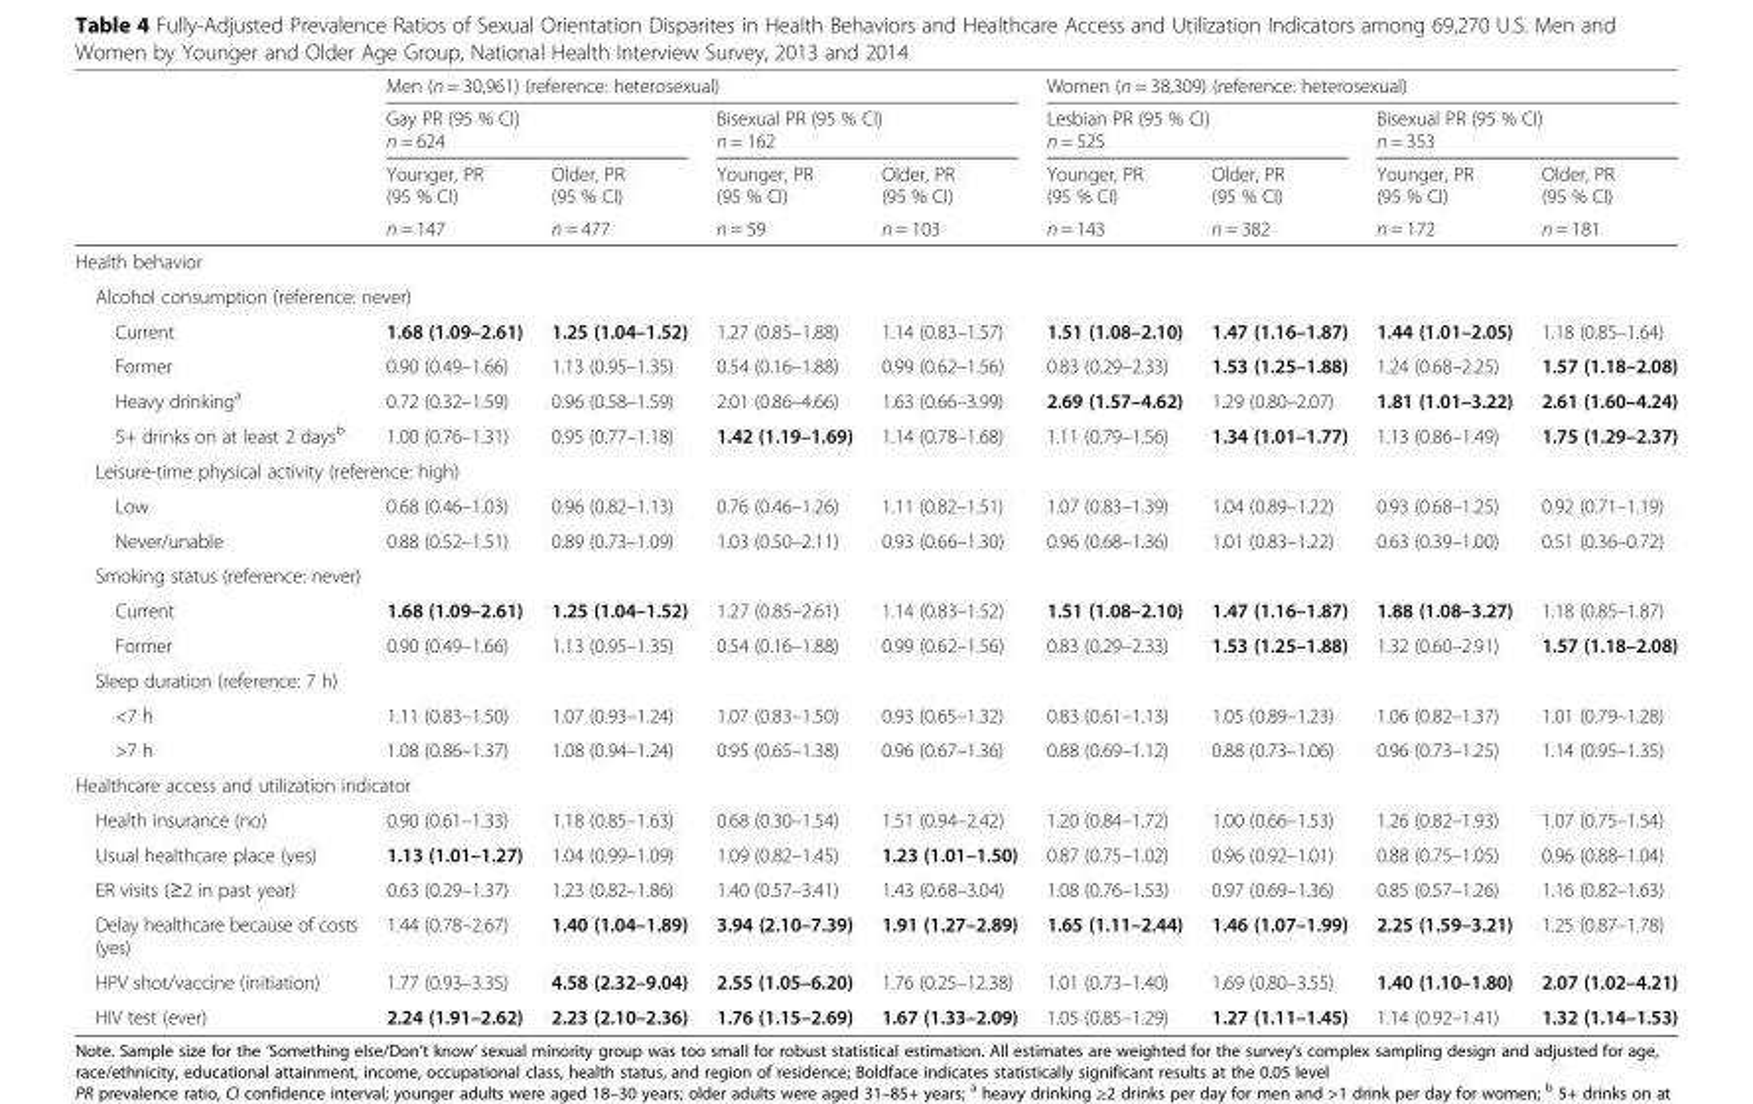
<table><thead><tr><td rowspan="5"></td><td colspan="4">Men (n = 30,961) (reference: heterosexual)</td><td colspan="4">Women (n = 38,309) (reference: heterosexual)</td></tr><tr><td rowspan="2" colspan="2">Gay PR (95 % CI) n = 624</td><td rowspan="2" colspan="2">Bisexual PR (95 % CI) n = 162</td><td rowspan="2" colspan="2">Lesbian PR (95 % CI) n = 525</td><td rowspan="2" colspan="2">Bisexual PR (95 % CI) n = 353</td></tr><tr></tr><tr><td rowspan="2">Younger, PR (95 % CI) n = 147</td><td rowspan="2">Older, PR (95 % CI) n = 477</td><td rowspan="2">Younger, PR (95 % CI) n = 59</td><td rowspan="2">Older, PR (95 % CI) n = 103</td><td rowspan="2">Younger, PR (95 % CI) n = 143</td><td rowspan="2">Older, PR (95 % CI) n = 382</td><td rowspan="2">Younger, PR (95 % CI) n = 172</td><td rowspan="2">Older, PR (95 % CI) n = 181</td></tr><tr></tr></thead><tbody><tr><td colspan="9">Health behavior</td></tr><tr><td colspan="9">Alcohol consumption (reference: never)</td></tr><tr><td>Current</td><td>1.68 (1.09–2.61)</td><td>1.25 (1.04–1.52)</td><td>1.27 (0.85–1.88)</td><td>1.14 (0.83–1.57)</td><td>1.51 (1.08–2.10)</td><td>1.47 (1.16–1.87)</td><td>1.44 (1.01–2.05)</td><td>1.18 (0.85–1.64)</td></tr><tr><td>Former</td><td>0.90 (0.49–1.66)</td><td>1.13 (0.95–1.35)</td><td>0.54 (0.16–1.88)</td><td>0.99 (0.62–1.56)</td><td>0.83 (0.29–2.33)</td><td>1.53 (1.25–1.88)</td><td>1.24 (0.68–2.25)</td><td>1.57 (1.18–2.08)</td></tr><tr><td>Heavy drinking<sup>a</sup></td><td>0.72 (0.32–1.59)</td><td>0.96 (0.58–1.59)</td><td>2.01 (0.86–4.66)</td><td>1.63 (0.66–3.99)</td><td>2.69 (1.57–4.62)</td><td>1.29 (0.80–2.07)</td><td>1.81 (1.01–3.22)</td><td>2.61 (1.60–4.24)</td></tr><tr><td>5+ drinks on at least 2 days<sup>b</sup></td><td>1.00 (0.76–1.31)</td><td>0.95 (0.77–1.18)</td><td>1.42 (1.19–1.69)</td><td>1.14 (0.78–1.68)</td><td>1.11 (0.79–1.56)</td><td>1.34 (1.01–1.77)</td><td>1.13 (0.86–1.49)</td><td>1.75 (1.29–2.37)</td></tr><tr><td colspan="9">Leisure-time physical activity (reference: high)</td></tr><tr><td>Low</td><td>0.68 (0.46–1.03)</td><td>0.96 (0.82–1.13)</td><td>0.76 (0.46–1.26)</td><td>1.11 (0.82–1.51)</td><td>1.07 (0.83–1.39)</td><td>1.04 (0.89–1.22)</td><td>0.93 (0.68–1.25)</td><td>0.92 (0.71–1.19)</td></tr><tr><td>Never/unable</td><td>0.88 (0.52–1.51)</td><td>0.89 (0.73–1.09)</td><td>1.03 (0.50–2.11)</td><td>0.93 (0.66–1.30)</td><td>0.96 (0.68–1.36)</td><td>1.01 (0.83–1.22)</td><td>0.63 (0.39–1.00)</td><td>0.51 (0.36–0.72)</td></tr><tr><td colspan="9">Smoking status (reference: never)</td></tr><tr><td>Current</td><td>1.68 (1.09–2.61)</td><td>1.25 (1.04–1.52)</td><td>1.27 (0.85–2.61)</td><td>1.14 (0.83–1.52)</td><td>1.51 (1.08–2.10)</td><td>1.47 (1.16–1.87)</td><td>1.88 (1.08–3.27)</td><td>1.18 (0.85–1.87)</td></tr><tr><td>Former</td><td>0.90 (0.49–1.66)</td><td>1.13 (0.95–1.35)</td><td>0.54 (0.16–1.88)</td><td>0.99 (0.62–1.56)</td><td>0.83 (0.29–2.33)</td><td>1.53 (1.25–1.88)</td><td>1.32 (0.60–2.91)</td><td>1.57 (1.18–2.08)</td></tr><tr><td colspan="9">Sleep duration (reference: 7 h)</td></tr><tr><td>&lt;7 h</td><td>1.11 (0.83–1.50)</td><td>1.07 (0.93–1.24)</td><td>1.07 (0.83–1.50)</td><td>0.93 (0.65–1.32)</td><td>0.83 (0.61–1.13)</td><td>1.05 (0.89–1.23)</td><td>1.06 (0.82–1.37)</td><td>1.01 (0.79–1.28)</td></tr><tr><td>&gt;7 h</td><td>1.08 (0.86–1.37)</td><td>1.08 (0.94–1.24)</td><td>0.95 (0.65–1.38)</td><td>0.96 (0.67–1.36)</td><td>0.88 (0.69–1.12)</td><td>0.88 (0.73–1.06)</td><td>0.96 (0.73–1.25)</td><td>1.14 (0.95–1.35)</td></tr><tr><td colspan="9">Healthcare access and utilization indicator</td></tr><tr><td>Health insurance (no)</td><td>0.90 (0.61–1.33)</td><td>1.18 (0.85–1.63)</td><td>0.68 (0.30–1.54)</td><td>1.51 (0.94–2.42)</td><td>1.20 (0.84–1.72)</td><td>1.00 (0.66–1.53)</td><td>1.26 (0.82–1.93)</td><td>1.07 (0.75–1.54)</td></tr><tr><td>Usual healthcare place (yes)</td><td>1.13 (1.01–1.27)</td><td>1.04 (0.99–1.09)</td><td>1.09 (0.82–1.45)</td><td>1.23 (1.01–1.50)</td><td>0.87 (0.75–1.02)</td><td>0.96 (0.92–1.01)</td><td>0.88 (0.75–1.05)</td><td>0.96 (0.88–1.04)</td></tr><tr><td>ER visits (≥2 in past year)</td><td>0.63 (0.29–1.37)</td><td>1.23 (0.82–1.86)</td><td>1.40 (0.57–3.41)</td><td>1.43 (0.68–3.04)</td><td>1.08 (0.76–1.53)</td><td>0.97 (0.69–1.36)</td><td>0.85 (0.57–1.26)</td><td>1.16 (0.82–1.63)</td></tr><tr><td>Delay healthcare because of costs (yes)</td><td>1.44 (0.78–2.67)</td><td>1.40 (1.04–1.89)</td><td>3.94 (2.10–7.39)</td><td>1.91 (1.27–2.89)</td><td>1.65 (1.11–2.44)</td><td>1.46 (1.07–1.99)</td><td>2.25 (1.59–3.21)</td><td>1.25 (0.87–1.78)</td></tr><tr><td>HPV shot/vaccine (initiation)</td><td>1.77 (0.93–3.35)</td><td>4.58 (2.32–9.04)</td><td>2.55 (1.05–6.20)</td><td>1.76 (0.25–12.38)</td><td>1.01 (0.73–1.40)</td><td>1.69 (0.80–3.55)</td><td>1.40 (1.10–1.80)</td><td>2.07 (1.02–4.21)</td></tr><tr><td>HIV test (ever)</td><td>2.24 (1.91–2.62)</td><td>2.23 (2.10–2.36)</td><td>1.76 (1.15–2.69)</td><td>1.67 (1.33–2.09)</td><td>1.05 (0.85–1.29)</td><td>1.27 (1.11–1.45)</td><td>1.14 (0.92–1.41)</td><td>1.32 (1.14–1.53)</td></tr></tbody></table>